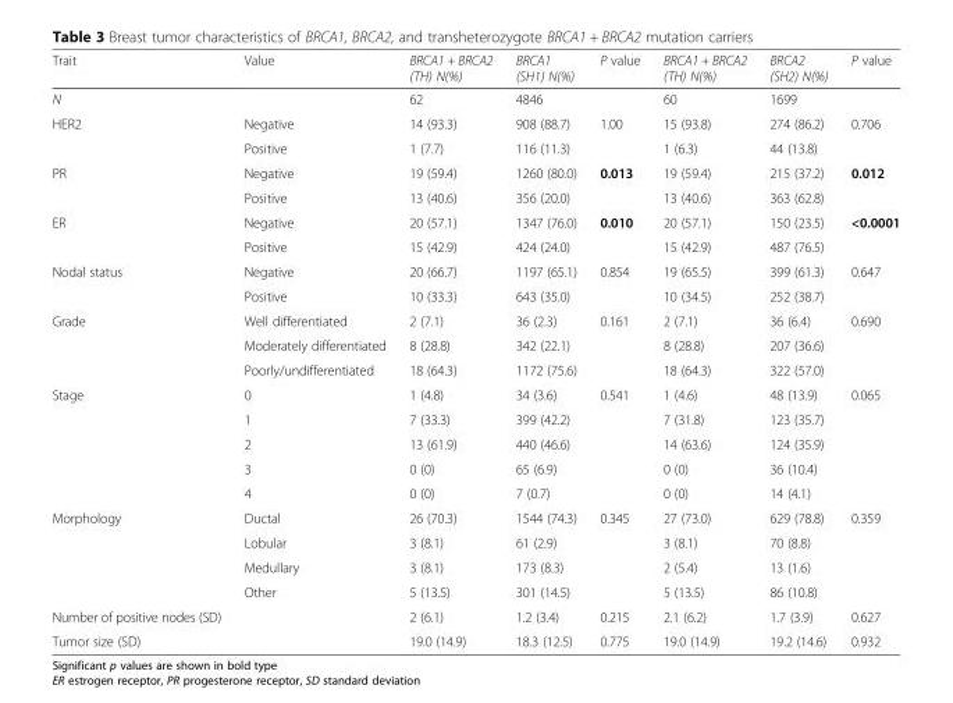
<table><thead><tr><td>Trait</td><td>Value</td><td>BRCA1 + BRCA2 (TH) N(%)</td><td>BRCA1 (SH1) N(%)</td><td>P value</td><td>BRCA1 + BRCA2 (TH) N(%)</td><td>BRCA2 (SH2) N(%)</td><td>P value</td></tr></thead><tbody><tr><td>N</td><td></td><td>62</td><td>4846</td><td></td><td>60</td><td>1699</td><td></td></tr><tr><td rowspan="2">HER2</td><td>Negative</td><td>14 (93.3)</td><td>908 (88.7)</td><td>1.00</td><td>15 (93.8)</td><td>274 (86.2)</td><td>0.706</td></tr><tr><td>Positive</td><td>1 (7.7)</td><td>116 (11.3)</td><td></td><td>1 (6.3)</td><td>44 (13.8)</td><td></td></tr><tr><td rowspan="2">PR</td><td>Negative</td><td>19 (59.4)</td><td>1260 (80.0)</td><td>0.013</td><td>19 (59.4)</td><td>215 (37.2)</td><td>0.012</td></tr><tr><td>Positive</td><td>13 (40.6)</td><td>356 (20.0)</td><td></td><td>13 (40.6)</td><td>363 (62.8)</td><td></td></tr><tr><td rowspan="2">ER</td><td>Negative</td><td>20 (57.1)</td><td>1347 (76.0)</td><td>0.010</td><td>20 (57.1)</td><td>150 (23.5)</td><td>&lt;0.0001</td></tr><tr><td>Positive</td><td>15 (42.9)</td><td>424 (24.0)</td><td></td><td>15 (42.9)</td><td>487 (76.5)</td><td></td></tr><tr><td rowspan="2">Nodal status</td><td>Negative</td><td>20 (66.7)</td><td>1197 (65.1)</td><td>0.854</td><td>19 (65.5)</td><td>399 (61.3)</td><td>0.647</td></tr><tr><td>Positive</td><td>10 (33.3)</td><td>643 (35.0)</td><td></td><td>10 (34.5)</td><td>252 (38.7)</td><td></td></tr><tr><td rowspan="3">Grade</td><td>Well differentiated</td><td>2 (7.1)</td><td>36 (2.3)</td><td>0.161</td><td>2 (7.1)</td><td>36 (6.4)</td><td>0.690</td></tr><tr><td>Moderately differentiated</td><td>8 (28.8)</td><td>342 (22.1)</td><td></td><td>8 (28.8)</td><td>207 (36.6)</td><td></td></tr><tr><td>Poorly/undifferentiated</td><td>18 (64.3)</td><td>1172 (75.6)</td><td></td><td>18 (64.3)</td><td>322 (57.0)</td><td></td></tr><tr><td rowspan="5">Stage</td><td>0</td><td>1 (4.8)</td><td>34 (3.6)</td><td>0.541</td><td>1 (4.6)</td><td>48 (13.9)</td><td>0.065</td></tr><tr><td>1</td><td>7 (33.3)</td><td>399 (42.2)</td><td></td><td>7 (31.8)</td><td>123 (35.7)</td><td></td></tr><tr><td>2</td><td>13 (61.9)</td><td>440 (46.6)</td><td></td><td>14 (63.6)</td><td>124 (35.9)</td><td></td></tr><tr><td>3</td><td>0 (0)</td><td>65 (6.9)</td><td></td><td>0 (0)</td><td>36 (10.4)</td><td></td></tr><tr><td>4</td><td>0 (0)</td><td>7 (0.7)</td><td></td><td>0 (0)</td><td>14 (4.1)</td><td></td></tr><tr><td rowspan="4">Morphology</td><td>Ductal</td><td>26 (70.3)</td><td>1544 (74.3)</td><td>0.345</td><td>27 (73.0)</td><td>629 (78.8)</td><td>0.359</td></tr><tr><td>Lobular</td><td>3 (8.1)</td><td>61 (2.9)</td><td></td><td>3 (8.1)</td><td>70 (8.8)</td><td></td></tr><tr><td>Medullary</td><td>3 (8.1)</td><td>173 (8.3)</td><td></td><td>2 (5.4)</td><td>13 (1.6)</td><td></td></tr><tr><td>Other</td><td>5 (13.5)</td><td>301 (14.5)</td><td></td><td>5 (13.5)</td><td>86 (10.8)</td><td></td></tr><tr><td>Number of positive nodes (SD)</td><td></td><td>2 (6.1)</td><td>1.2 (3.4)</td><td>0.215</td><td>2.1 (6.2)</td><td>1.7 (3.9)</td><td>0.627</td></tr><tr><td>Tumor size (SD)</td><td></td><td>19.0 (14.9)</td><td>18.3 (12.5)</td><td>0.775</td><td>19.0 (14.9)</td><td>19.2 (14.6)</td><td>0.932</td></tr></tbody></table>